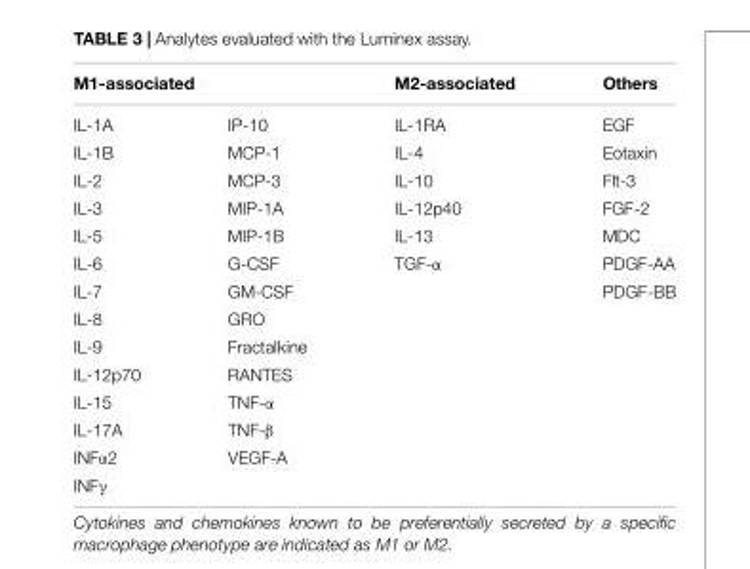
<table><thead><tr><td colspan="2">M1-associated</td><td rowspan="2">M2-associated IL-1RA</td><td rowspan="2">Others EGF</td></tr><tr><td>IL-1A</td><td>IP-10</td></tr></thead><tbody><tr><td>IL-1B</td><td>MCP-1</td><td>IL-4</td><td>Eotaxin</td></tr><tr><td>IL-2</td><td>MCP-3</td><td>IL-10</td><td>Flt-3</td></tr><tr><td>IL-3</td><td>MIP-1A</td><td>IL-12p40</td><td>FGF-2</td></tr><tr><td>IL-5</td><td>MIP-1B</td><td>IL-13</td><td>MDC</td></tr><tr><td>IL-6</td><td>G-CSF</td><td>TGF-α</td><td>PDGF-AA</td></tr><tr><td>IL-7</td><td>GM-CSF</td><td></td><td>PDGF-BB</td></tr><tr><td>IL-8</td><td>GRO</td><td></td><td></td></tr><tr><td>IL-9</td><td>Fractalkine</td><td></td><td></td></tr><tr><td>IL-12p70</td><td>RANTES</td><td></td><td></td></tr><tr><td>IL-15</td><td>TNF-α</td><td></td><td></td></tr><tr><td>IL-17A</td><td>TNF-β</td><td></td><td></td></tr><tr><td>INFα2</td><td>VEGF-A</td><td></td><td></td></tr><tr><td>INFγ</td><td></td><td></td><td></td></tr></tbody></table>